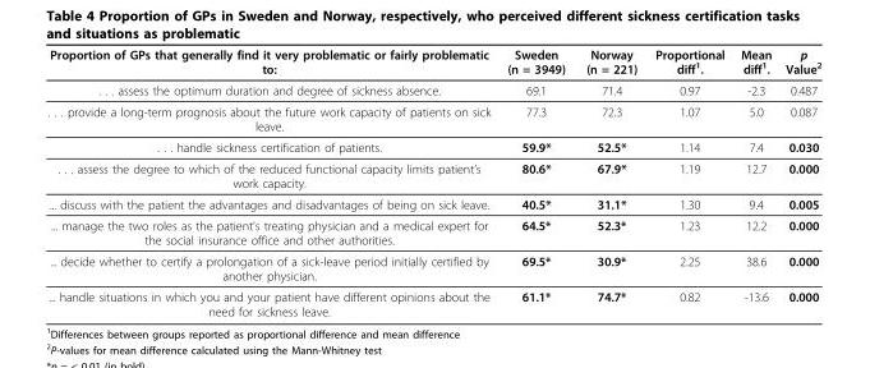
<table><thead><tr><td>Proportion of GPs that generally find it very problematic or fairly problematic to:</td><td>Sweden (n = 3949)</td><td>Norway (n = 221)</td><td>Proportional diff<sup>1</sup>.</td><td>Mean diff<sup>1</sup>.</td><td>p Value<sup>2</sup></td></tr></thead><tbody><tr><td>. . . assess the optimum duration and degree of sickness absence.</td><td>69.1</td><td>71.4</td><td>0.97</td><td>-2.3</td><td>0.487</td></tr><tr><td>. . . provide a long-term prognosis about the future work capacity of patients on sick leave.</td><td>77.3</td><td>72.3</td><td>1.07</td><td>5.0</td><td>0.087</td></tr><tr><td>. . . handle sickness certification of patients.</td><td>59.9*</td><td>52.5*</td><td>1.14</td><td>7.4</td><td>0.030</td></tr><tr><td>. . . assess the degree to which of the reduced functional capacity limits patient’s work capacity.</td><td>80.6*</td><td>67.9*</td><td>1.19</td><td>12.7</td><td>0.000</td></tr><tr><td>... discuss with the patient the advantages and disadvantages of being on sick leave.</td><td>40.5*</td><td>31.1*</td><td>1.30</td><td>9.4</td><td>0.005</td></tr><tr><td>... manage the two roles as the patient’s treating physician and a medical expert for the social insurance office and other authorities.</td><td>64.5*</td><td>52.3*</td><td>1.23</td><td>12.2</td><td>0.000</td></tr><tr><td>... decide whether to certify a prolongation of a sick-leave period initially certified by another physician.</td><td>69.5*</td><td>30.9*</td><td>2.25</td><td>38.6</td><td>0.000</td></tr><tr><td>... handle situations in which you and your patient have different opinions about the need for sickness leave.</td><td>61.1*</td><td>74.7*</td><td>0.82</td><td>-13.6</td><td>0.000</td></tr></tbody></table>